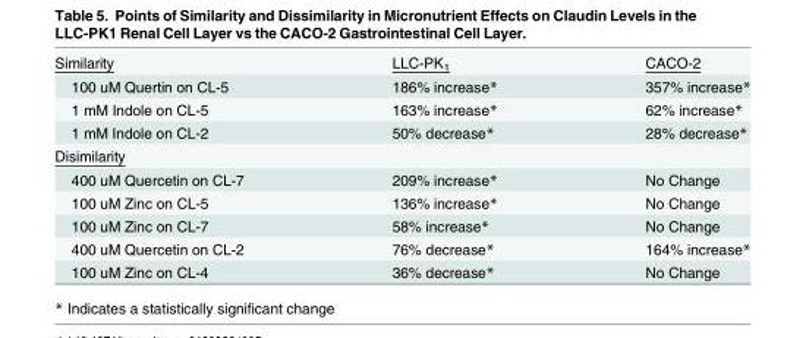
<table><tbody><tr><td>Similarity</td><td>LLC-PK<sub>1</sub></td><td>CACO-2</td></tr><tr><td>100 uM Quertin on CL-5</td><td>186% increase*</td><td>357% increase*</td></tr><tr><td>1 mM Indole on CL-5</td><td>163% increase*</td><td>62% increase*</td></tr><tr><td>1 mM Indole on CL-2</td><td>50% decrease*</td><td>28% decrease*</td></tr><tr><td colspan="3">Disimilarity</td></tr><tr><td>400 uM Quercetin on CL-7</td><td>209% increase*</td><td>No Change</td></tr><tr><td>100 uM Zinc on CL-5</td><td>136% increase*</td><td>No Change</td></tr><tr><td>100 uM Zinc on CL-7</td><td>58% increase*</td><td>No Change</td></tr><tr><td>400 uM Quercetin on CL-2</td><td>76% decrease*</td><td>164% increase*</td></tr><tr><td>100 uM Zinc on CL-4</td><td>36% decrease*</td><td>No Change</td></tr></tbody></table>